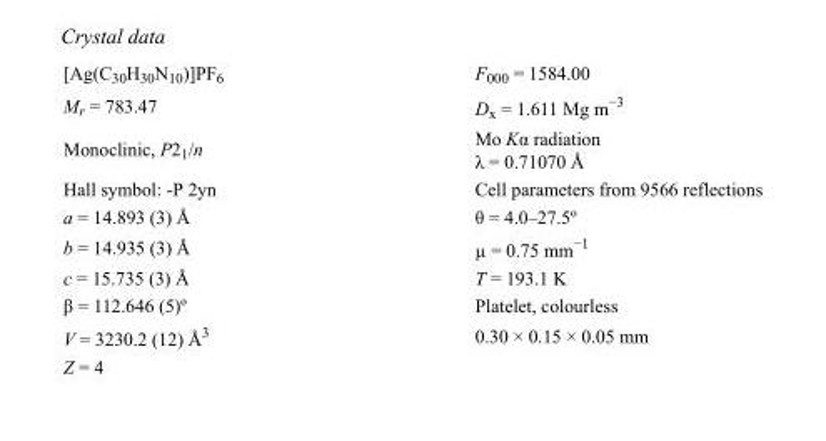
<table><tbody><tr><td>[Ag(C<sub>30</sub>H<sub>30</sub>N<sub>10</sub>)]PF<sub>6</sub></td><td>F000 = 1584.00</td></tr><tr><td>M<sub>r</sub> = 783.47</td><td>D<sub>x</sub> = 1.611 Mg m<sup>−3</sup></td></tr><tr><td>Monoclinic, P2<sub>1</sub>/n</td><td>Mo Kα radiation λ = 0.71070 Å</td></tr><tr><td>Hall symbol: -P 2yn</td><td>Cell parameters from 9566 reflections</td></tr><tr><td>a = 14.893 (3) Å</td><td>θ = 4.0–27.5º</td></tr><tr><td>b = 14.935 (3) Å</td><td>µ = 0.75 mm<sup>−1</sup></td></tr><tr><td>c = 15.735 (3) Å</td><td>T = 193.1 K</td></tr><tr><td>β = 112.646 (5)º</td><td>Platelet, colourless</td></tr><tr><td>V = 3230.2 (12) Å<sup>3</sup></td><td>0.30 × 0.15 × 0.05 mm</td></tr><tr><td>Z = 4</td><td></td></tr></tbody></table>